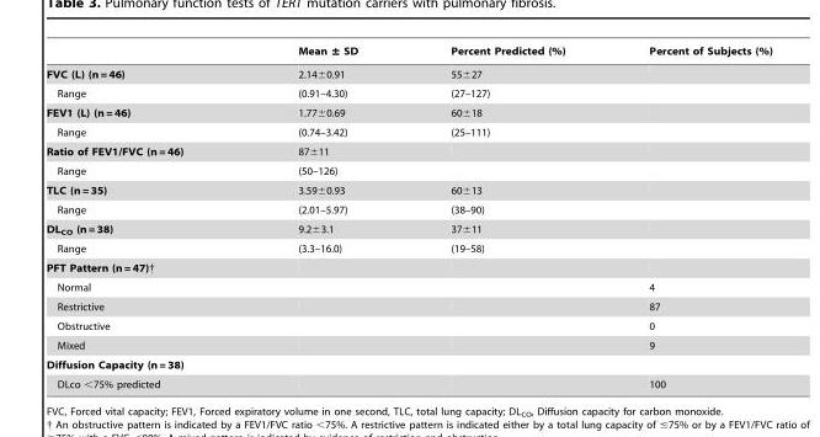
<table><thead><tr><td></td><td>Mean ± SD</td><td>Percent Predicted (%)</td><td>Percent of Subjects (%)</td></tr></thead><tbody><tr><td>FVC (L) (n = 46)</td><td>2.14±0.91</td><td>55±27</td><td></td></tr><tr><td>Range</td><td>(0.91–4.30)</td><td>(27–127)</td><td></td></tr><tr><td>FEV1 (L) (n = 46)</td><td>1.77±0.69</td><td>60±18</td><td></td></tr><tr><td>Range</td><td>(0.74–3.42)</td><td>(25–111)</td><td></td></tr><tr><td>Ratio of FEV1/FVC (n = 46)</td><td>87±11</td><td></td><td></td></tr><tr><td>Range</td><td>(50–126)</td><td></td><td></td></tr><tr><td>TLC (n = 35)</td><td>3.59±0.93</td><td>60±13</td><td></td></tr><tr><td>Range</td><td>(2.01–5.97)</td><td>(38–90)</td><td></td></tr><tr><td>DL<sub>CO</sub> (n = 38)</td><td>9.2±3.1</td><td>37±11</td><td></td></tr><tr><td>Range</td><td>(3.3–16.0)</td><td>(19–58)</td><td></td></tr><tr><td colspan="4">PFT Pattern (n = 47)†</td></tr><tr><td>Normal</td><td></td><td></td><td>4</td></tr><tr><td>Restrictive</td><td></td><td></td><td>87</td></tr><tr><td>Obstructive</td><td></td><td></td><td>0</td></tr><tr><td>Mixed</td><td></td><td></td><td>9</td></tr><tr><td colspan="4">Diffusion Capacity (n = 38)</td></tr><tr><td>DLco &lt;75% predicted</td><td></td><td></td><td>100</td></tr></tbody></table>